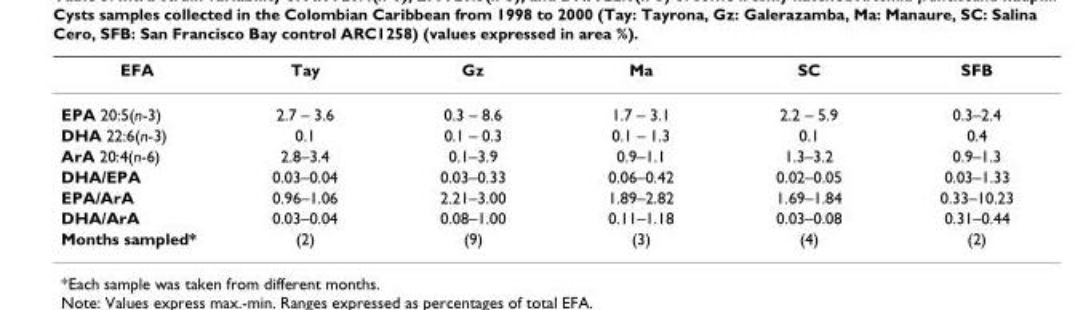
<table><thead><tr><td>EFA</td><td>Tay</td><td>Gz</td><td>Ma</td><td>SC</td><td>SFB</td></tr></thead><tbody><tr><td>EPA 20:5(n-3)</td><td>2.7 – 3.6</td><td>0.3 – 8.6</td><td>1.7 – 3.1</td><td>2.2 – 5.9</td><td>0.3–2.4</td></tr><tr><td>DHA 22:6(n-3)</td><td>0.1</td><td>0.1 – 0.3</td><td>0.1 – 1.3</td><td>0.1</td><td>0.4</td></tr><tr><td>ArA 20:4(n-6)</td><td>2.8–3.4</td><td>0.1–3.9</td><td>0.9–1.1</td><td>1.3–3.2</td><td>0.9–1.3</td></tr><tr><td>DHA/EPA</td><td>0.03–0.04</td><td>0.03–0.33</td><td>0.06–0.42</td><td>0.02–0.05</td><td>0.03–1.33</td></tr><tr><td>EPA/ArA</td><td>0.96–1.06</td><td>2.21–3.00</td><td>1.89–2.82</td><td>1.69–1.84</td><td>0.33–10.23</td></tr><tr><td>DHA/ArA</td><td>0.03–0.04</td><td>0.08–1.00</td><td>0.11–1.18</td><td>0.03–0.08</td><td>0.31–0.44</td></tr><tr><td>Months sampled*</td><td>(2)</td><td>(9)</td><td>(3)</td><td>(4)</td><td>(2)</td></tr></tbody></table>